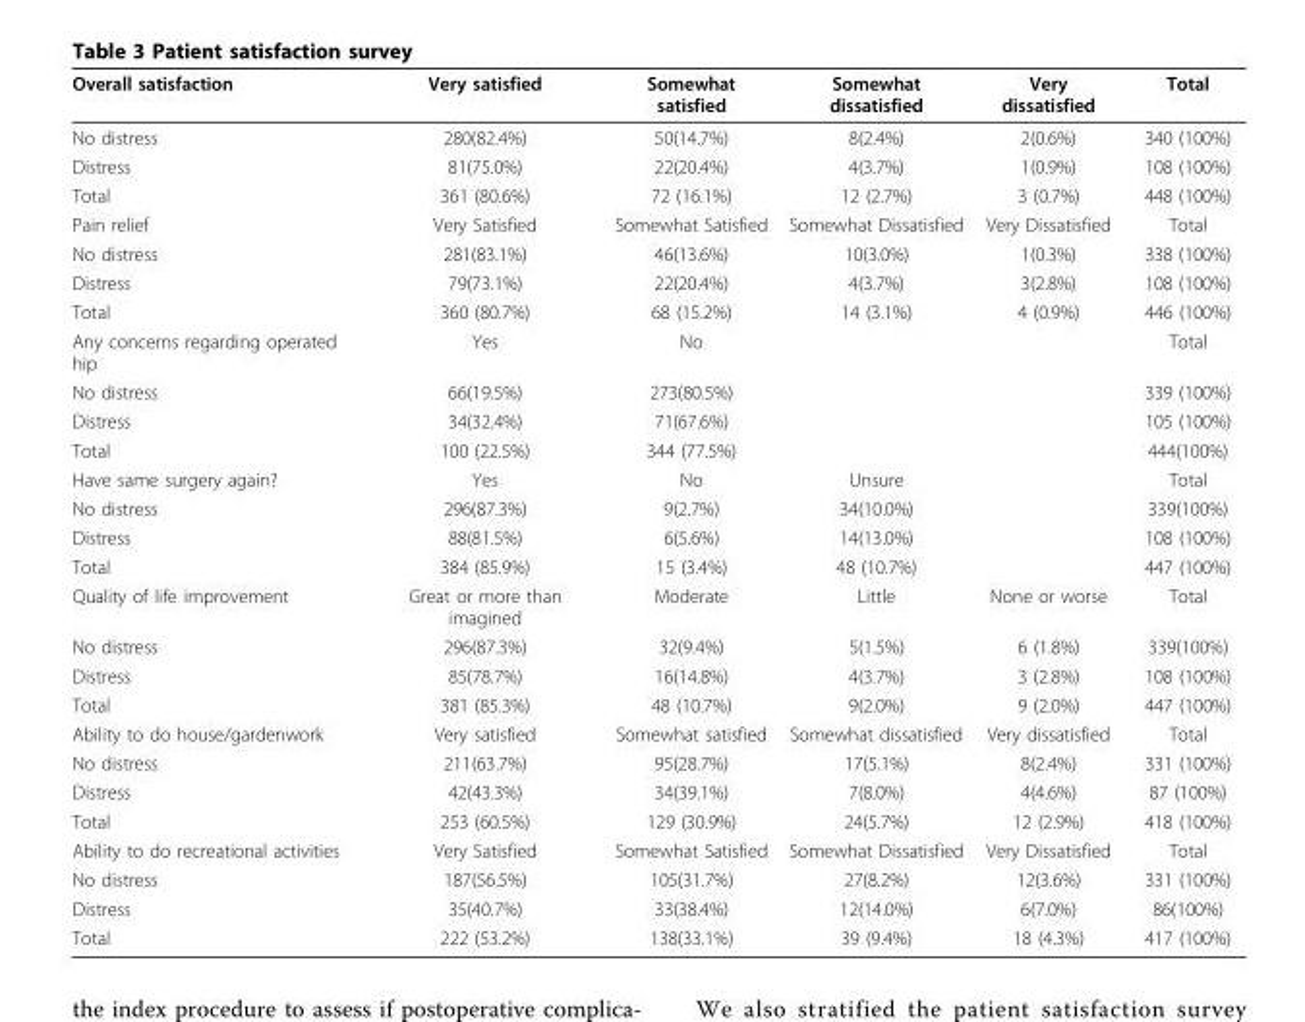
<table><thead><tr><td>Overall satisfaction</td><td>Very satisfied</td><td>Somewhat satisfied</td><td>Somewhat dissatisfied</td><td>Very dissatisfied</td><td>Total</td></tr></thead><tbody><tr><td>No distress</td><td>280(82.4%)</td><td>50(14.7%)</td><td>8(2.4%)</td><td>2(0.6%)</td><td>340 (100%)</td></tr><tr><td>Distress</td><td>81(75.0%)</td><td>22(20.4%)</td><td>4(3.7%)</td><td>1(0.9%)</td><td>108 (100%)</td></tr><tr><td>Total</td><td>361 (80.6%)</td><td>72 (16.1%)</td><td>12 (2.7%)</td><td>3 (0.7%)</td><td>448 (100%)</td></tr><tr><td>Pain relief</td><td>Very Satisfied</td><td>Somewhat Satisfied</td><td>Somewhat Dissatisfied</td><td>Very Dissatisfied</td><td>Total</td></tr><tr><td>No distress</td><td>281(83.1%)</td><td>46(13.6%)</td><td>10(3.0%)</td><td>1(0.3%)</td><td>338 (100%)</td></tr><tr><td>Distress</td><td>79(73.1%)</td><td>22(20.4%)</td><td>4(3.7%)</td><td>3(2.8%)</td><td>108 (100%)</td></tr><tr><td>Total</td><td>360 (80.7%)</td><td>68 (15.2%)</td><td>14 (3.1%)</td><td>4 (0.9%)</td><td>446 (100%)</td></tr><tr><td>Any concerns regarding operated hip</td><td>Yes</td><td>No</td><td></td><td></td><td>Total</td></tr><tr><td>No distress</td><td>66(19.5%)</td><td>273(80.5%)</td><td></td><td></td><td>339 (100%)</td></tr><tr><td>Distress</td><td>34(32.4%)</td><td>71(67.6%)</td><td></td><td></td><td>105 (100%)</td></tr><tr><td>Total</td><td>100 (22.5%)</td><td>344 (77.5%)</td><td></td><td></td><td>444(100%)</td></tr><tr><td>Have same surgery again?</td><td>Yes</td><td>No</td><td>Unsure</td><td></td><td>Total</td></tr><tr><td>No distress</td><td>296(87.3%)</td><td>9(2.7%)</td><td>34(10.0%)</td><td></td><td>339(100%)</td></tr><tr><td>Distress</td><td>88(81.5%)</td><td>6(5.6%)</td><td>14(13.0%)</td><td></td><td>108 (100%)</td></tr><tr><td>Total</td><td>384 (85.9%)</td><td>15 (3.4%)</td><td>48 (10.7%)</td><td></td><td>447 (100%)</td></tr><tr><td>Quality of life improvement</td><td>Great or more than imagined</td><td>Moderate</td><td>Little</td><td>None or worse</td><td>Total</td></tr><tr><td>No distress</td><td>296(87.3%)</td><td>32(9.4%)</td><td>5(1.5%)</td><td>6 (1.8%)</td><td>339(100%)</td></tr><tr><td>Distress</td><td>85(78.7%)</td><td>16(14.8%)</td><td>4(3.7%)</td><td>3 (2.8%)</td><td>108 (100%)</td></tr><tr><td>Total</td><td>381 (85.3%)</td><td>48 (10.7%)</td><td>9(2.0%)</td><td>9 (2.0%)</td><td>447 (100%)</td></tr><tr><td>Ability to do house/gardenwork</td><td>Very satisfied</td><td>Somewhat satisfied</td><td>Somewhat dissatisfied</td><td>Very dissatisfied</td><td>Total</td></tr><tr><td>No distress</td><td>211(63.7%)</td><td>95(28.7%)</td><td>17(5.1%)</td><td>8(2.4%)</td><td>331 (100%)</td></tr><tr><td>Distress</td><td>42(43.3%)</td><td>34(39.1%)</td><td>7(8.0%)</td><td>4(4.6%)</td><td>87 (100%)</td></tr><tr><td>Total</td><td>253 (60.5%)</td><td>129 (30.9%)</td><td>24(5.7%)</td><td>12 (2.9%)</td><td>418 (100%)</td></tr><tr><td>Ability to do recreational activities</td><td>Very Satisfied</td><td>Somewhat Satisfied</td><td>Somewhat Dissatisfied</td><td>Very Dissatisfied</td><td>Total</td></tr><tr><td>No distress</td><td>187(56.5%)</td><td>105(31.7%)</td><td>27(8.2%)</td><td>12(3.6%)</td><td>331 (100%)</td></tr><tr><td>Distress</td><td>35(40.7%)</td><td>33(38.4%)</td><td>12(14.0%)</td><td>6(7.0%)</td><td>86(100%)</td></tr><tr><td>Total</td><td>222 (53.2%)</td><td>138(33.1%)</td><td>39 (9.4%)</td><td>18 (4.3%)</td><td>417 (100%)</td></tr></tbody></table>